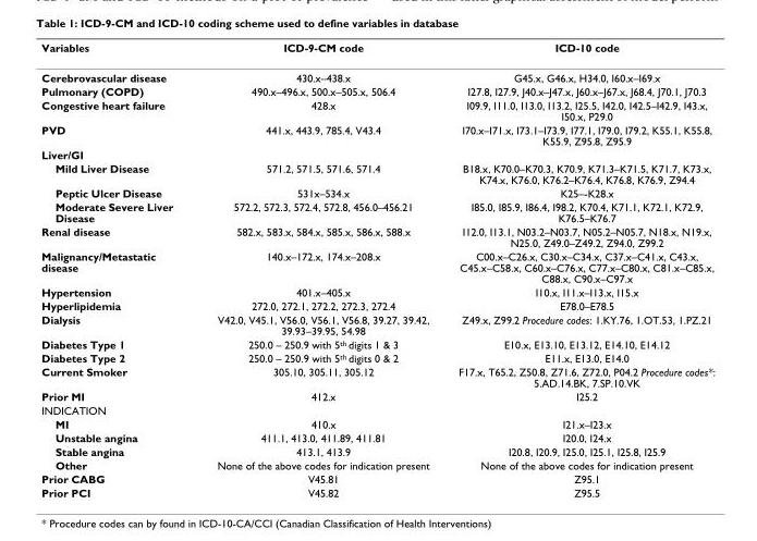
<table><thead><tr><td>Variables</td><td>ICD-9-CM code</td><td>ICD-10 code</td></tr></thead><tbody><tr><td>Cerebrovascular disease</td><td>430.x–438.x</td><td>G45.x, G46.x, H34.0, I60.x–I69.x</td></tr><tr><td>Pulmonary (COPD)</td><td>490.x–496.x, 500.x–505.x, 506.4</td><td>I27.8, I27.9, J40.x–J47.x, J60.x–J67.x, J68.4, J70.1, J70.3</td></tr><tr><td>Congestive heart failure</td><td>428.x</td><td>I09.9, I11.0, I13.0, I13.2, I25.5, I42.0, I42.5–I42.9, I43.x, I50.x, P29.0</td></tr><tr><td>PVD</td><td>441.x, 443.9, 785.4, V43.4</td><td>I70.x–I71.x, I73.1–I73.9, I77.1, I79.0, I79.2, K55.1, K55.8, K55.9, Z95.8, Z95.9</td></tr><tr><td colspan="3">Liver/GI</td></tr><tr><td>Mild Liver Disease</td><td>571.2, 571.5, 571.6, 571.4</td><td>B18.x, K70.0–K70.3, K70.9, K71.3–K71.5, K71.7, K73.x, K74.x, K76.0, K76.2–K76.4, K76.8, K76.9, Z94.4</td></tr><tr><td>Peptic Ulcer Disease</td><td>531x–534.x</td><td>K25–-K28.x</td></tr><tr><td>Moderate Severe Liver Disease</td><td>572.2, 572.3, 572.4, 572.8, 456.0–456.21</td><td>I85.0, I85.9, I86.4, I98.2, K70.4, K71.1, K72.1, K72.9, K76.5–K76.7</td></tr><tr><td>Renal disease</td><td>582.x, 583.x, 584.x, 585.x, 586.x, 588.x</td><td>I12.0, I13.1, N03.2–N03.7, N05.2–N05.7, N18.x, N19.x, N25.0, Z49.0–Z49.2, Z94.0, Z99.2</td></tr><tr><td>Malignancy/Metastatic disease</td><td>140.x–172.x, 174.x–208.x</td><td>C00.x–C26.x, C30.x–C34.x, C37.x–C41.x, C43.x, C45.x–C58.x, C60.x–C76.x, C77.x–C80.x, C81.x–C85.x, C88.x, C90.x–C97.x</td></tr><tr><td>Hypertension</td><td>401.x–405.x</td><td>I10.x, I11.x–I13.x, I15.x</td></tr><tr><td>Hyperlipidemia</td><td>272.0, 272.1, 272.2, 272.3, 272.4</td><td>E78.0–E78.5</td></tr><tr><td>Dialysis</td><td>V42.0, V45.1, V56.0, V56.1, V56.8, 39.27, 39.42, 39.93–39.95, 54.98</td><td>Z49.x, Z99.2 Procedure codes: 1.KY.76, 1.OT.53, 1.PZ.21</td></tr><tr><td>Diabetes Type 1</td><td>250.0 – 250.9 with 5<sup>th</sup> digits 1 &amp; 3</td><td>E10.x, E13.10, E13.12, E14.10, E14.12</td></tr><tr><td>Diabetes Type 2</td><td>250.0 – 250.9 with 5<sup>th</sup> digits 0 &amp; 2</td><td>E11.x, E13.0, E14.0</td></tr><tr><td>Current Smoker</td><td>305.10, 305.11, 305.12</td><td>F17.x, T65.2, Z50.8, Z71.6, Z72.0, P04.2 Procedure codes*: 5.AD.14.BK, 7.SP.10.VK</td></tr><tr><td>Prior MI</td><td>412.x</td><td>I25.2</td></tr><tr><td colspan="3">INDICATION</td></tr><tr><td>MI</td><td>410.x</td><td>I21.x–I23.x</td></tr><tr><td>Unstable angina</td><td>411.1, 413.0, 411.89, 411.81</td><td>I20.0, I24.x</td></tr><tr><td>Stable angina</td><td>413.1, 413.9</td><td>I20.8, I20.9, I25.0, I25.1, I25.8, I25.9</td></tr><tr><td>Other</td><td>None of the above codes for indication present</td><td>None of the above codes for indication present</td></tr><tr><td>Prior CABG</td><td>V45.81</td><td>Z95.1</td></tr><tr><td>Prior PCI</td><td>V45.82</td><td>Z95.5</td></tr></tbody></table>